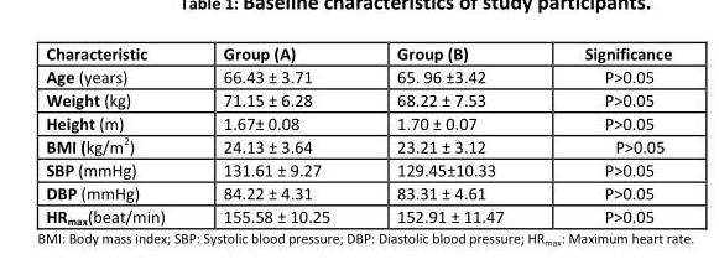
<table><thead><tr><td>Characteristic</td><td>Group (A)</td><td>Group (B)</td><td>Significance</td></tr></thead><tbody><tr><td>Age (years)</td><td>66.43 ± 3.71</td><td>65. 96 ±3.42</td><td>P&gt;0.05</td></tr><tr><td>Weight (kg)</td><td>71.15 ± 6.28</td><td>68.22 ± 7.53</td><td>P&gt;0.05</td></tr><tr><td>Height (m)</td><td>1.67± 0.08</td><td>1.70 ± 0.07</td><td>P&gt;0.05</td></tr><tr><td>BMI (kg/m<sup>2</sup>)</td><td>24.13 ± 3.64</td><td>23.21 ± 3.12</td><td>P&gt;0.05</td></tr><tr><td>SBP (mmHg)</td><td>131.61 ± 9.27</td><td>129.45±10.33</td><td>P&gt;0.05</td></tr><tr><td>DBP (mmHg)</td><td>84.22 ± 4.31</td><td>83.31 ± 4.61</td><td>P&gt;0.05</td></tr><tr><td>HR<sub>max</sub>(beat/min)</td><td>155.58 ± 10.25</td><td>152.91 ± 11.47</td><td>P&gt;0.05</td></tr></tbody></table>